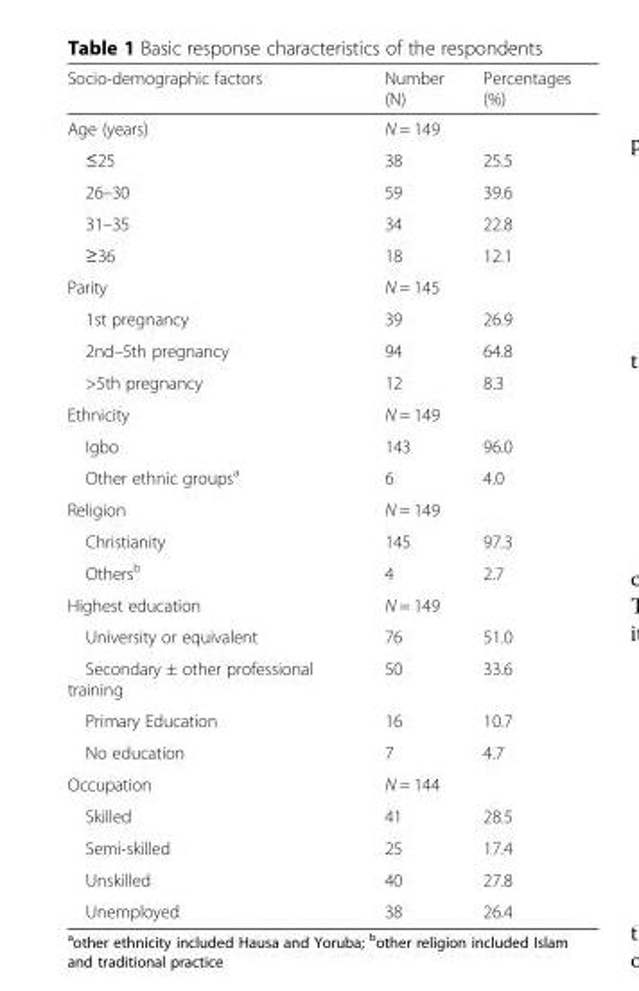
<table><thead><tr><td>Socio-demographic factors</td><td>Number (N)</td><td>Percentages (%)</td></tr></thead><tbody><tr><td>Age (years)</td><td>N = 149</td><td></td></tr><tr><td>≤25</td><td>38</td><td>25.5</td></tr><tr><td>26–30</td><td>59</td><td>39.6</td></tr><tr><td>31–35</td><td>34</td><td>22.8</td></tr><tr><td>≥36</td><td>18</td><td>12.1</td></tr><tr><td>Parity</td><td>N = 145</td><td></td></tr><tr><td>1st pregnancy</td><td>39</td><td>26.9</td></tr><tr><td>2nd–5th pregnancy</td><td>94</td><td>64.8</td></tr><tr><td>&gt;5th pregnancy</td><td>12</td><td>8.3</td></tr><tr><td>Ethnicity</td><td>N = 149</td><td></td></tr><tr><td>Igbo</td><td>143</td><td>96.0</td></tr><tr><td>Other ethnic groups<sup>a</sup></td><td>6</td><td>4.0</td></tr><tr><td>Religion</td><td>N = 149</td><td></td></tr><tr><td>Christianity</td><td>145</td><td>97.3</td></tr><tr><td>Others<sup>b</sup></td><td>4</td><td>2.7</td></tr><tr><td>Highest education</td><td>N = 149</td><td></td></tr><tr><td>University or equivalent</td><td>76</td><td>51.0</td></tr><tr><td>Secondary ± other professional training</td><td>50</td><td>33.6</td></tr><tr><td>Primary Education</td><td>16</td><td>10.7</td></tr><tr><td>No education</td><td>7</td><td>4.7</td></tr><tr><td>Occupation</td><td>N = 144</td><td></td></tr><tr><td>Skilled</td><td>41</td><td>28.5</td></tr><tr><td>Semi-skilled</td><td>25</td><td>17.4</td></tr><tr><td>Unskilled</td><td>40</td><td>27.8</td></tr><tr><td>Unemployed</td><td>38</td><td>26.4</td></tr></tbody></table>